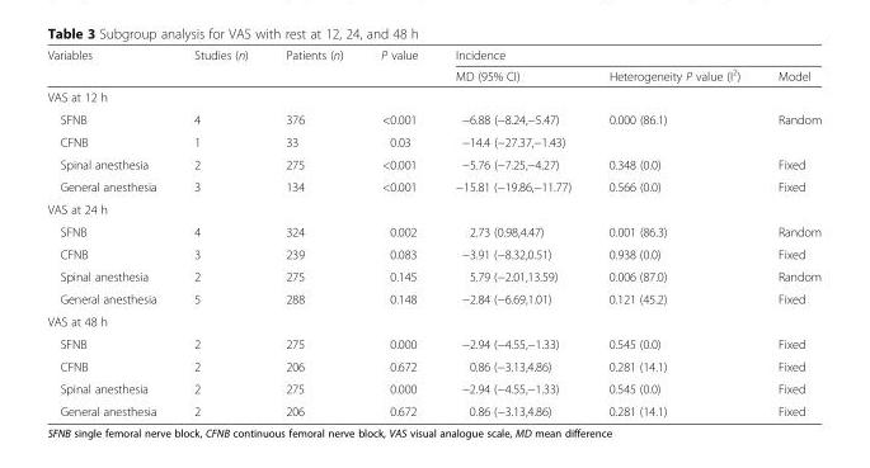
<table><thead><tr><td rowspan="2">Variables</td><td rowspan="2">Studies (n)</td><td rowspan="2">Patients (n)</td><td rowspan="2">P value</td><td colspan="3">Incidence</td></tr><tr><td>MD (95% CI)</td><td>Heterogeneity P value (I<sup>2</sup>)</td><td>Model</td></tr></thead><tbody><tr><td colspan="7">VAS at 12 h</td></tr><tr><td>SFNB</td><td>4</td><td>376</td><td>&lt;0.001</td><td>−6.88 (−8.24,−5.47)</td><td>0.000 (86.1)</td><td>Random</td></tr><tr><td>CFNB</td><td>1</td><td>33</td><td>0.03</td><td>−14.4 (−27.37,−1.43)</td><td></td><td></td></tr><tr><td>Spinal anesthesia</td><td>2</td><td>275</td><td>&lt;0.001</td><td>−5.76 (−7.25,−4.27)</td><td>0.348 (0.0)</td><td>Fixed</td></tr><tr><td>General anesthesia</td><td>3</td><td>134</td><td>&lt;0.001</td><td>−15.81 (−19.86,−11.77)</td><td>0.566 (0.0)</td><td>Fixed</td></tr><tr><td colspan="7">VAS at 24 h</td></tr><tr><td>SFNB</td><td>4</td><td>324</td><td>0.002</td><td>2.73 (0.98,4.47)</td><td>0.001 (86.3)</td><td>Random</td></tr><tr><td>CFNB</td><td>3</td><td>239</td><td>0.083</td><td>−3.91 (−8.32,0.51)</td><td>0.938 (0.0)</td><td>Fixed</td></tr><tr><td>Spinal anesthesia</td><td>2</td><td>275</td><td>0.145</td><td>5.79 (−2.01,13.59)</td><td>0.006 (87.0)</td><td>Random</td></tr><tr><td>General anesthesia</td><td>5</td><td>288</td><td>0.148</td><td>−2.84 (−6.69,1.01)</td><td>0.121 (45.2)</td><td>Fixed</td></tr><tr><td colspan="7">VAS at 48 h</td></tr><tr><td>SFNB</td><td>2</td><td>275</td><td>0.000</td><td>−2.94 (−4.55,−1.33)</td><td>0.545 (0.0)</td><td>Fixed</td></tr><tr><td>CFNB</td><td>2</td><td>206</td><td>0.672</td><td>0.86 (−3.13,4.86)</td><td>0.281 (14.1)</td><td>Fixed</td></tr><tr><td>Spinal anesthesia</td><td>2</td><td>275</td><td>0.000</td><td>−2.94 (−4.55,−1.33)</td><td>0.545 (0.0)</td><td>Fixed</td></tr><tr><td>General anesthesia</td><td>2</td><td>206</td><td>0.672</td><td>0.86 (−3.13,4.86)</td><td>0.281 (14.1)</td><td>Fixed</td></tr></tbody></table>